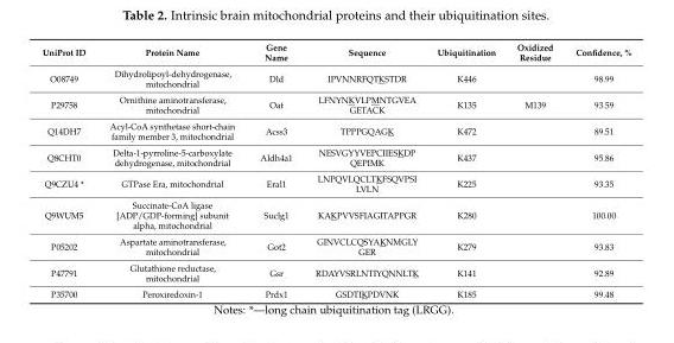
<table><thead><tr><td>UniProt ID</td><td>Protein Name</td><td>Gene Name</td><td>Sequence</td><td>Ubiquitination</td><td>Oxidized Residue</td><td>Confidence, %</td></tr></thead><tbody><tr><td>O08749</td><td>Dihydrolipoyl-dehydrogenase, mitochondrial</td><td>Dld</td><td>IPVNNRFQTKSTDR</td><td>K446</td><td></td><td>98.99</td></tr><tr><td>P29758</td><td>Ornithine aminotransferase, mitochondrial</td><td>Oat</td><td>LFNYNKVLPMNTGVEA GETACK</td><td>K135</td><td>M139</td><td>93.59</td></tr><tr><td>Q14DH7</td><td>Acyl-CoA synthetase short-chain family member 3, mitochondrial</td><td>Acss3</td><td>TPPPGQAGK</td><td>K472</td><td></td><td>89.51</td></tr><tr><td>Q8CHT0</td><td>Delta-1-pyrroline-5-carboxylate dehydrogenase, mitochondrial</td><td>Aldh4a1</td><td>NESVGYYVEPCIIESKDP QEPIMK</td><td>K437</td><td></td><td>95.86</td></tr><tr><td>Q9CZU4 *</td><td>GTPase Era, mitochondrial</td><td>Eral1</td><td>LNPQVLQCLTKFSQVPSI LVLN</td><td>K225</td><td></td><td>93.35</td></tr><tr><td>Q9WUM5</td><td>Succinate-CoA ligase [ADP/GDP-forming] subunit alpha, mitochondrial</td><td>Suclg1</td><td>KAKPVVSFIAGITAPPGR</td><td>K280</td><td></td><td>100.00</td></tr><tr><td>P05202</td><td>Aspartate aminotransferase, mitochondrial</td><td>Got2</td><td>GINVCLCQSYAKNMGLY GER</td><td>K279</td><td></td><td>93.83</td></tr><tr><td>P47791</td><td>Glutathione reductase, mitochondrial</td><td>Gsr</td><td>RDAYVSRLNTIYQNNLTK</td><td>K141</td><td></td><td>92.89</td></tr><tr><td>P35700</td><td>Peroxiredoxin-1</td><td>Prdx1</td><td>GSDTIKPDVNK</td><td>K185</td><td></td><td>99.48</td></tr></tbody></table>